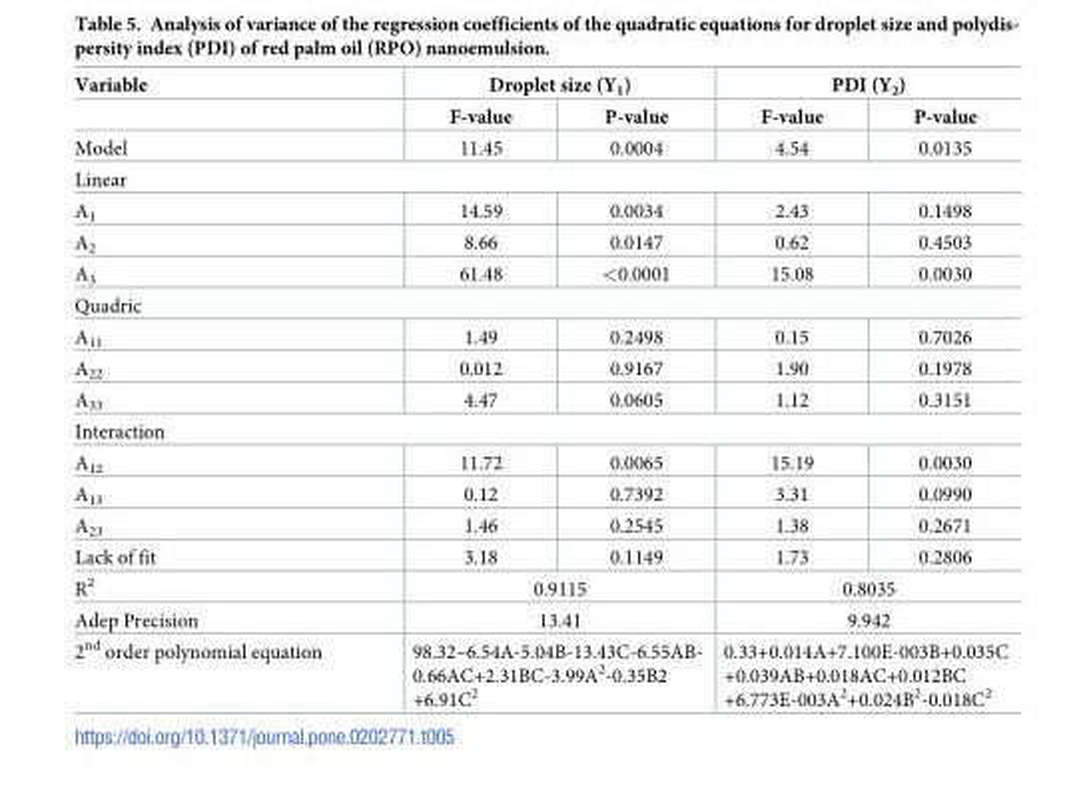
<table><thead><tr><td rowspan="2">Variable</td><td colspan="2">Droplet size (Y<sub>1</sub>)</td><td colspan="2">PDI (Y<sub>2</sub>)</td></tr><tr><td>F-value</td><td>P-value</td><td>F-value</td><td>P-value</td></tr></thead><tbody><tr><td>Model</td><td>11.45</td><td>0.0004</td><td>4.54</td><td>0.0135</td></tr><tr><td colspan="5">Linear</td></tr><tr><td>A<sub>1</sub></td><td>14.59</td><td>0.0034</td><td>2.43</td><td>0.1498</td></tr><tr><td>A<sub>2</sub></td><td>8.66</td><td>0.0147</td><td>0.62</td><td>0.4503</td></tr><tr><td>A<sub>3</sub></td><td>61.48</td><td>&lt;0.0001</td><td>15.08</td><td>0.0030</td></tr><tr><td colspan="5">Quadric</td></tr><tr><td>A<sub>11</sub></td><td>1.49</td><td>0.2498</td><td>0.15</td><td>0.7026</td></tr><tr><td>A<sub>22</sub></td><td>0.012</td><td>0.9167</td><td>1.90</td><td>0.1978</td></tr><tr><td>A<sub>33</sub></td><td>4.47</td><td>0.0605</td><td>1.12</td><td>0.3151</td></tr><tr><td colspan="5">Interaction</td></tr><tr><td>A<sub>12</sub></td><td>11.72</td><td>0.0065</td><td>15.19</td><td>0.0030</td></tr><tr><td>A<sub>13</sub></td><td>0.12</td><td>0.7392</td><td>3.31</td><td>0.0990</td></tr><tr><td>A<sub>23</sub></td><td>1.46</td><td>0.2545</td><td>1.38</td><td>0.2671</td></tr><tr><td>Lack of fit</td><td>3.18</td><td>0.1149</td><td>1.73</td><td>0.2806</td></tr><tr><td>R<sup>2</sup></td><td colspan="2">0.9115</td><td colspan="2">0.8035</td></tr><tr><td>Adep Precision</td><td colspan="2">13.41</td><td colspan="2">9.942</td></tr><tr><td>2<sup>nd</sup> order polynomial equation</td><td colspan="2">98.32–6.54A-5.04B-13.43C-6.55AB- 0.66AC+2.31BC-3.99A<sup>2</sup>-0.35B2 +6.91C<sup>2</sup></td><td colspan="2">0.33+0.014A+7.100E-003B+0.035C +0.039AB+0.018AC+0.012BC +6.773E-003A<sup>2</sup>+0.024B<sup>2</sup>-0.018C<sup>2</sup></td></tr></tbody></table>